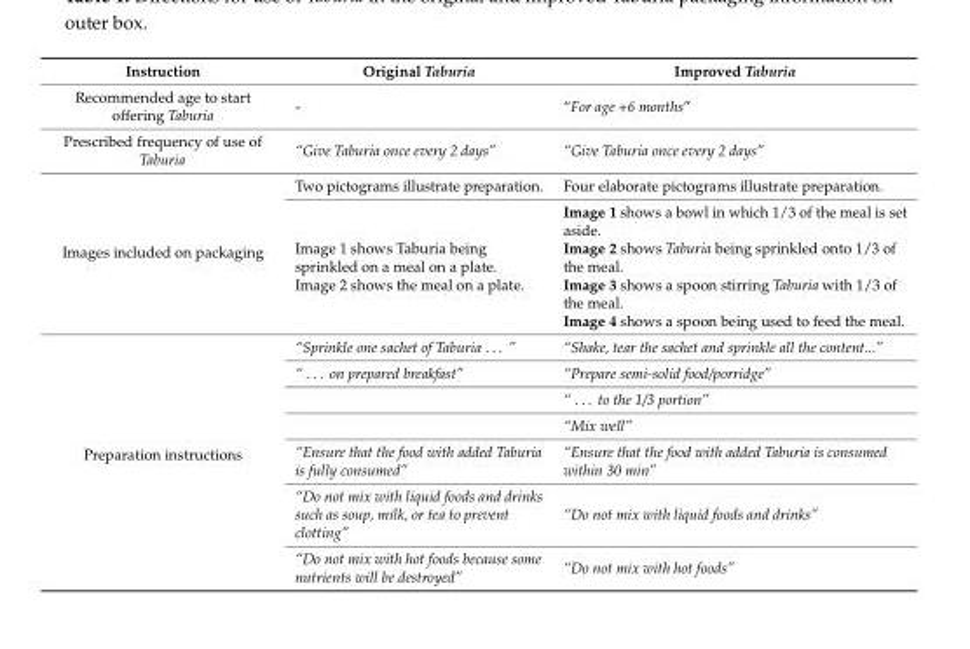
<table><thead><tr><td>Instruction</td><td>Original Taburia</td><td>Improved Taburia</td></tr></thead><tbody><tr><td>Recommended age to start offering Taburia</td><td>-</td><td>“For age +6 months”</td></tr><tr><td>Prescribed frequency of use of Taburia</td><td>“Give Taburia once every 2 days”</td><td>“Give Taburia once every 2 days”</td></tr><tr><td rowspan="2">Images included on packaging</td><td>Two pictograms illustrate preparation.</td><td>Four elaborate pictograms illustrate preparation.</td></tr><tr><td>Image 1 shows Taburia being sprinkled on a meal on a plate. Image 2 shows the meal on a plate.</td><td>Image 1 shows a bowl in which 1/3 of the meal is set aside. Image 2 shows Taburia being sprinkled onto 1/3 of the meal. Image 3 shows a spoon stirring Taburia with 1/3 of the meal. Image 4 shows a spoon being used to feed the meal.</td></tr><tr><td rowspan="7">Preparation instructions</td><td>“Sprinkle one sachet of Taburia . . . ”</td><td>“Shake, tear the sachet and sprinkle all the content...”</td></tr><tr><td>“ . . . on prepared breakfast”</td><td>“Prepare semi-solid food/porridge”</td></tr><tr><td></td><td>“ . . . to the 1/3 portion”</td></tr><tr><td></td><td>“Mix well”</td></tr><tr><td>“Ensure that the food with added Taburia is fully consumed”</td><td>“Ensure that the food with added Taburia is consumed within 30 min”</td></tr><tr><td>“Do not mix with liquid foods and drinks such as soup, milk, or tea to prevent clotting”</td><td>“Do not mix with liquid foods and drinks”</td></tr><tr><td>“Do not mix with hot foods because some nutrients will be destroyed”</td><td>“Do not mix with hot foods”</td></tr></tbody></table>